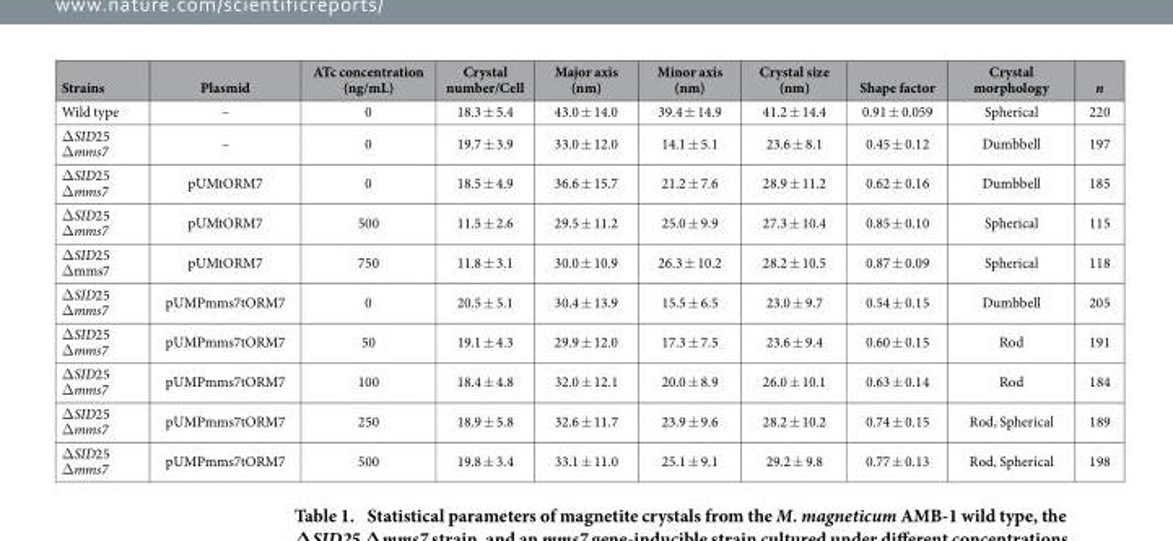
<table><thead><tr><td>Strains</td><td>Plasmid</td><td>ATc concentration (ng/mL)</td><td>Crystal number/Cell</td><td>Major axis (nm)</td><td>Minor axis (nm)</td><td>Crystal size (nm)</td><td>Shape factor</td><td>Crystal morphology</td><td>n</td></tr></thead><tbody><tr><td>Wild type</td><td>–</td><td>0</td><td>18.3 ± 5.4</td><td>43.0 ± 14.0</td><td>39.4 ± 14.9</td><td>41.2 ± 14.4</td><td>0.91 ± 0.059</td><td>Spherical</td><td>220</td></tr><tr><td>Δ SID25 Δ mms7</td><td>–</td><td>0</td><td>19.7 ± 3.9</td><td>33.0 ± 12.0</td><td>14.1 ± 5.1</td><td>23.6 ± 8.1</td><td>0.45 ± 0.12</td><td>Dumbbell</td><td>197</td></tr><tr><td>Δ SID25 Δ mms7</td><td>pUMtORM7</td><td>0</td><td>18.5 ± 4.9</td><td>36.6 ± 15.7</td><td>21.2 ± 7.6</td><td>28.9 ± 11.2</td><td>0.62 ± 0.16</td><td>Dumbbell</td><td>185</td></tr><tr><td>Δ SID25 Δ mms7</td><td>pUMtORM7</td><td>500</td><td>11.5 ± 2.6</td><td>29.5 ± 11.2</td><td>25.0 ± 9.9</td><td>27.3 ± 10.4</td><td>0.85 ± 0.10</td><td>Spherical</td><td>115</td></tr><tr><td>Δ SID25 Δ mms7</td><td>pUMtORM7</td><td>750</td><td>11.8 ± 3.1</td><td>30.0 ± 10.9</td><td>26.3 ± 10.2</td><td>28.2 ± 10.5</td><td>0.87 ± 0.09</td><td>Spherical</td><td>118</td></tr><tr><td>Δ SID25 Δ mms7</td><td>pUMPmms7tORM7</td><td>0</td><td>20.5 ± 5.1</td><td>30.4 ± 13.9</td><td>15.5 ± 6.5</td><td>23.0 ± 9.7</td><td>0.54 ± 0.15</td><td>Dumbbell</td><td>205</td></tr><tr><td>Δ SID25 Δ mms7</td><td>pUMPmms7tORM7</td><td>50</td><td>19.1 ± 4.3</td><td>29.9 ± 12.0</td><td>17.3 ± 7.5</td><td>23.6 ± 9.4</td><td>0.60 ± 0.15</td><td>Rod</td><td>191</td></tr><tr><td>Δ SID25 Δ mms7</td><td>pUMPmms7tORM7</td><td>100</td><td>18.4 ± 4.8</td><td>32.0 ± 12.1</td><td>20.0 ± 8.9</td><td>26.0 ± 10.1</td><td>0.63 ± 0.14</td><td>Rod</td><td>184</td></tr><tr><td>Δ SID25 Δ mms7</td><td>pUMPmms7tORM7</td><td>250</td><td>18.9 ± 5.8</td><td>32.6 ± 11.7</td><td>23.9 ± 9.6</td><td>28.2 ± 10.2</td><td>0.74 ± 0.15</td><td>Rod, Spherical</td><td>189</td></tr><tr><td>Δ SID25 Δ mms7</td><td>pUMPmms7tORM7</td><td>500</td><td>19.8 ± 3.4</td><td>33.1 ± 11.0</td><td>25.1 ± 9.1</td><td>29.2 ± 9.8</td><td>0.77 ± 0.13</td><td>Rod, Spherical</td><td>198</td></tr></tbody></table>